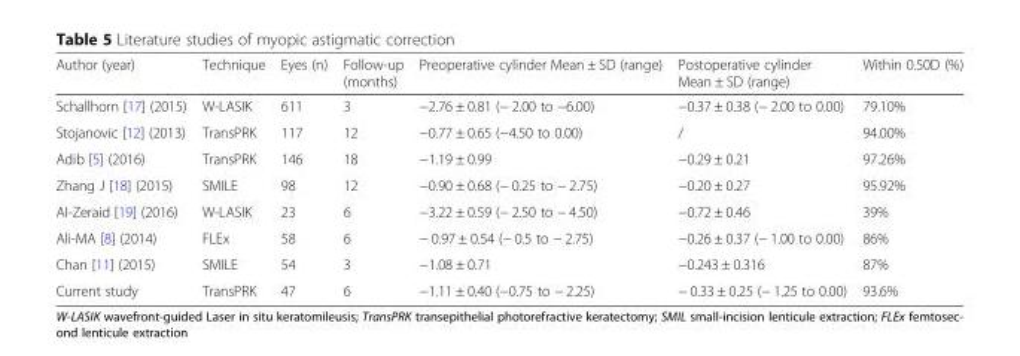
<table><thead><tr><td>Author (year)</td><td>Technique</td><td>Eyes (n)</td><td>Follow-up (months)</td><td>Preoperative cylinder Mean ± SD (range)</td><td>Postoperative cylinder Mean ± SD (range)</td><td>Within 0.50D (%)</td></tr></thead><tbody><tr><td>Schallhorn [17] (2015)</td><td>W-LASIK</td><td>611</td><td>3</td><td>−2.76 ± 0.81 (− 2.00 to −6.00)</td><td>−0.37 ± 0.38 (− 2.00 to 0.00)</td><td>79.10%</td></tr><tr><td>Stojanovic [12] (2013)</td><td>TransPRK</td><td>117</td><td>12</td><td>−0.77 ± 0.65 (−4.50 to 0.00)</td><td>/</td><td>94.00%</td></tr><tr><td>Adib [5] (2016)</td><td>TransPRK</td><td>146</td><td>18</td><td>−1.19 ± 0.99</td><td>−0.29 ± 0.21</td><td>97.26%</td></tr><tr><td>Zhang J [18] (2015)</td><td>SMILE</td><td>98</td><td>12</td><td>−0.90 ± 0.68 (− 0.25 to − 2.75)</td><td>−0.20 ± 0.27</td><td>95.92%</td></tr><tr><td>AI-Zeraid [19] (2016)</td><td>W-LASIK</td><td>23</td><td>6</td><td>−3.22 ± 0.59 (− 2.50 to − 4.50)</td><td>−0.72 ± 0.46</td><td>39%</td></tr><tr><td>Ali-MA [8] (2014)</td><td>FLEx</td><td>58</td><td>6</td><td>− 0.97 ± 0.54 (− 0.5 to − 2.75)</td><td>−0.26 ± 0.37 (− 1.00 to 0.00)</td><td>86%</td></tr><tr><td>Chan [11] (2015)</td><td>SMILE</td><td>54</td><td>3</td><td>−1.08 ± 0.71</td><td>−0.243 ± 0.316</td><td>87%</td></tr><tr><td>Current study</td><td>TransPRK</td><td>47</td><td>6</td><td>−1.11 ± 0.40 (−0.75 to − 2.25)</td><td>− 0.33 ± 0.25 (− 1.25 to 0.00)</td><td>93.6%</td></tr></tbody></table>